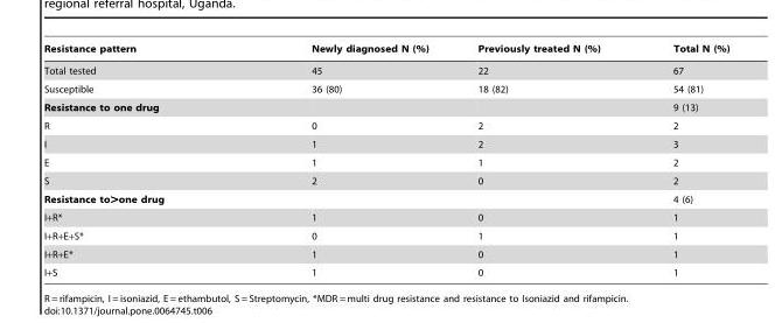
<table><thead><tr><td>Resistance pattern</td><td>Newly diagnosed N (%)</td><td>Previously treated N (%)</td><td>Total N (%)</td></tr></thead><tbody><tr><td>Total tested</td><td>45</td><td>22</td><td>67</td></tr><tr><td>Susceptible</td><td>36 (80)</td><td>18 (82)</td><td>54 (81)</td></tr><tr><td>Resistance to one drug</td><td></td><td></td><td>9 (13)</td></tr><tr><td>R</td><td>0</td><td>2</td><td>2</td></tr><tr><td>I</td><td>1</td><td>2</td><td>3</td></tr><tr><td>E</td><td>1</td><td>1</td><td>2</td></tr><tr><td>S</td><td>2</td><td>0</td><td>2</td></tr><tr><td>Resistance to&gt;one drug</td><td></td><td></td><td>4 (6)</td></tr><tr><td>I+R*</td><td>1</td><td>0</td><td>1</td></tr><tr><td>I+R+E+S*</td><td>0</td><td>1</td><td>1</td></tr><tr><td>I+R+E*</td><td>1</td><td>0</td><td>1</td></tr><tr><td>I+S</td><td>1</td><td>0</td><td>1</td></tr></tbody></table>